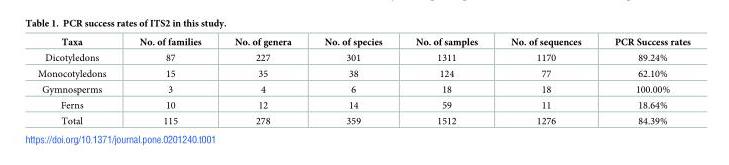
<table><thead><tr><td>Taxa</td><td>No. of families</td><td>No. of genera</td><td>No. of species</td><td>No. of samples</td><td>No. of sequences</td><td>PCR Success rates</td></tr></thead><tbody><tr><td>Dicotyledons</td><td>87</td><td>227</td><td>301</td><td>1311</td><td>1170</td><td>89.24%</td></tr><tr><td>Monocotyledons</td><td>15</td><td>35</td><td>38</td><td>124</td><td>77</td><td>62.10%</td></tr><tr><td>Gymnosperms</td><td>3</td><td>4</td><td>6</td><td>18</td><td>18</td><td>100.00%</td></tr><tr><td>Ferns</td><td>10</td><td>12</td><td>14</td><td>59</td><td>11</td><td>18.64%</td></tr><tr><td>Total</td><td>115</td><td>278</td><td>359</td><td>1512</td><td>1276</td><td>84.39%</td></tr></tbody></table>